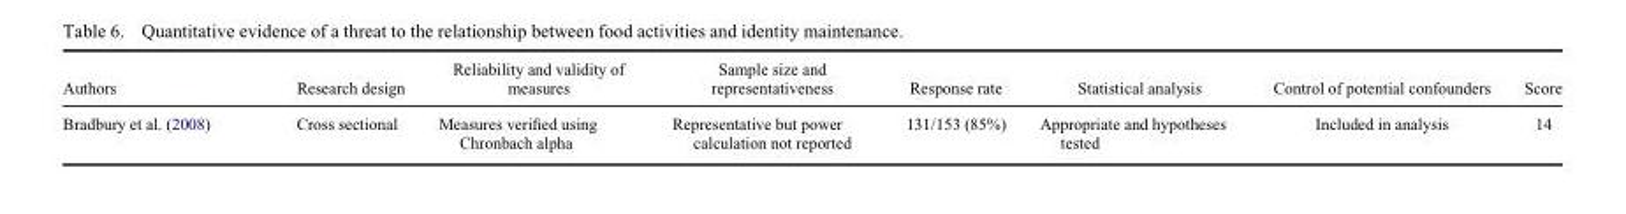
<table><thead><tr><td>Authors</td><td>Research design</td><td>Reliability and validity of measures</td><td>Sample size and representativeness</td><td>Response rate</td><td>Statistical analysis</td><td>Control of potential confounders</td><td>Score</td></tr></thead><tbody><tr><td>Bradbury et al. (2008)</td><td>Cross sectional</td><td>Measures verified using Chronbach alpha</td><td>Representative but power calculation not reported</td><td>131/153 (85%)</td><td>Appropriate and hypotheses tested</td><td>Included in analysis</td><td>14</td></tr></tbody></table>